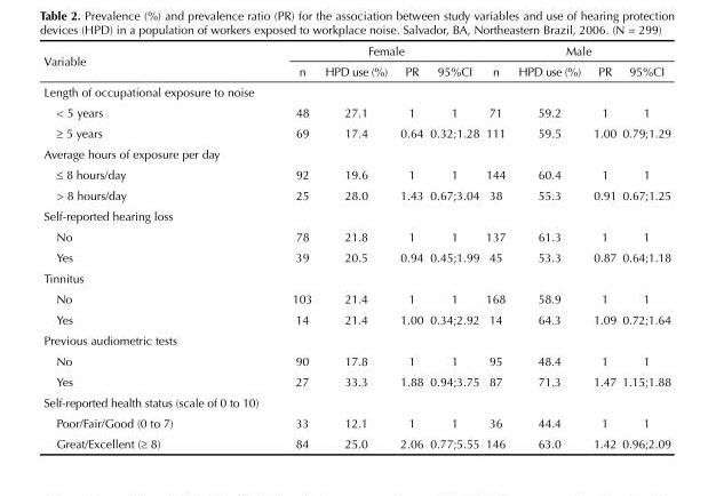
<table><thead><tr><td rowspan="2">Variable</td><td colspan="4">Female</td><td colspan="4">Male</td></tr><tr><td>n</td><td>HPD use (%)</td><td>PR</td><td>95%CI</td><td>n</td><td>HPD use (%)</td><td>PR</td><td>95%CI</td></tr></thead><tbody><tr><td colspan="9">Length of occupational exposure to noise</td></tr><tr><td>&lt; 5 years</td><td>48</td><td>27.1</td><td>1</td><td>1</td><td>71</td><td>59.2</td><td>1</td><td>1</td></tr><tr><td>≥ 5 years</td><td>69</td><td>17.4</td><td>0.64</td><td>0.32;1.28</td><td>111</td><td>59.5</td><td>1.00</td><td>0.79;1.29</td></tr><tr><td colspan="9">Average hours of exposure per day</td></tr><tr><td>≤ 8 hours/day</td><td>92</td><td>19.6</td><td>1</td><td>1</td><td>144</td><td>60.4</td><td>1</td><td>1</td></tr><tr><td>&gt; 8 hours/day</td><td>25</td><td>28.0</td><td>1.43</td><td>0.67;3.04</td><td>38</td><td>55.3</td><td>0.91</td><td>0.67;1.25</td></tr><tr><td colspan="9">Self-reported hearing loss</td></tr><tr><td>No</td><td>78</td><td>21.8</td><td>1</td><td>1</td><td>137</td><td>61.3</td><td>1</td><td>1</td></tr><tr><td>Yes</td><td>39</td><td>20.5</td><td>0.94</td><td>0.45;1.99</td><td>45</td><td>53.3</td><td>0.87</td><td>0.64;1.18</td></tr><tr><td colspan="9">Tinnitus</td></tr><tr><td>No</td><td>103</td><td>21.4</td><td>1</td><td>1</td><td>168</td><td>58.9</td><td>1</td><td>1</td></tr><tr><td>Yes</td><td>14</td><td>21.4</td><td>1.00</td><td>0.34;2.92</td><td>14</td><td>64.3</td><td>1.09</td><td>0.72;1.64</td></tr><tr><td colspan="9">Previous audiometric tests</td></tr><tr><td>No</td><td>90</td><td>17.8</td><td>1</td><td>1</td><td>95</td><td>48.4</td><td>1</td><td>1</td></tr><tr><td>Yes</td><td>27</td><td>33.3</td><td>1.88</td><td>0.94;3.75</td><td>87</td><td>71.3</td><td>1.47</td><td>1.15;1.88</td></tr><tr><td colspan="9">Self-reported health status (scale of 0 to 10)</td></tr><tr><td>Poor/Fair/Good (0 to 7)</td><td>33</td><td>12.1</td><td>1</td><td>1</td><td>36</td><td>44.4</td><td>1</td><td>1</td></tr><tr><td>Great/Excellent (≥ 8)</td><td>84</td><td>25.0</td><td>2.06</td><td>0.77;5.55</td><td>146</td><td>63.0</td><td>1.42</td><td>0.96;2.09</td></tr></tbody></table>